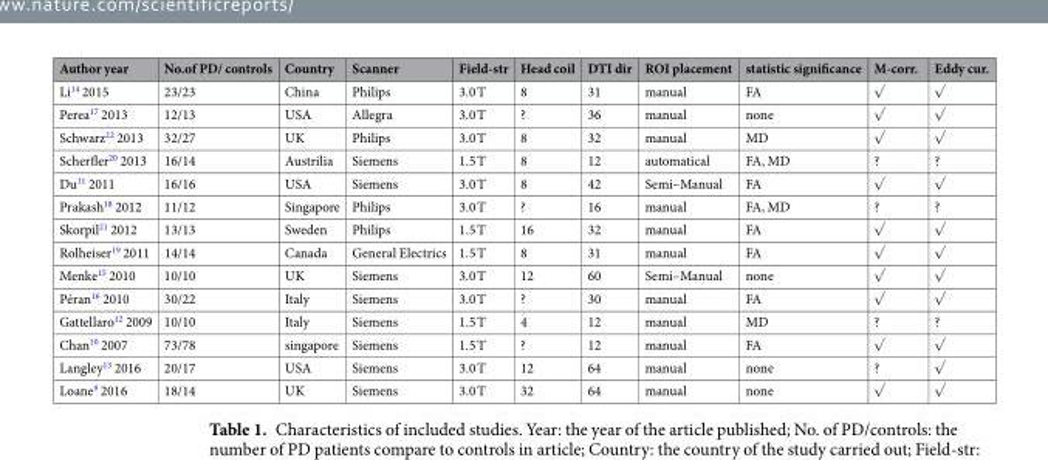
<table><thead><tr><td>Author year</td><td>No.of PD/ controls</td><td>Country</td><td>Scanner</td><td>Field-str</td><td>Head coil</td><td>DTI dir</td><td>ROI placement</td><td>statistic significance</td><td>M-corr.</td><td>Eddy cur.</td></tr></thead><tbody><tr><td>Li<sup>14</sup> 2015</td><td>23/23</td><td>China</td><td>Philips</td><td>3.0 T</td><td>8</td><td>31</td><td>manual</td><td>FA</td><td>√</td><td>√</td></tr><tr><td>Perea<sup>17</sup> 2013</td><td>12/13</td><td>USA</td><td>Allegra</td><td>3.0 T</td><td>?</td><td>36</td><td>manual</td><td>none</td><td>√</td><td>√</td></tr><tr><td>Schwarz<sup>22</sup> 2013</td><td>32/27</td><td>UK</td><td>Philips</td><td>3.0 T</td><td>8</td><td>32</td><td>manual</td><td>MD</td><td>√</td><td>√</td></tr><tr><td>Scherfler<sup>20</sup> 2013</td><td>16/14</td><td>Austrilia</td><td>Siemens</td><td>1.5 T</td><td>8</td><td>12</td><td>automatical</td><td>FA, MD</td><td>?</td><td>?</td></tr><tr><td>Du<sup>11</sup> 2011</td><td>16/16</td><td>USA</td><td>Siemens</td><td>3.0 T</td><td>8</td><td>42</td><td>Semi–Manual</td><td>FA</td><td>√</td><td>√</td></tr><tr><td>Prakash<sup>18</sup> 2012</td><td>11/12</td><td>Singapore</td><td>Philips</td><td>3.0 T</td><td>?</td><td>16</td><td>manual</td><td>FA, MD</td><td>?</td><td>?</td></tr><tr><td>Skorpil<sup>21</sup> 2012</td><td>13/13</td><td>Sweden</td><td>Philips</td><td>1.5 T</td><td>16</td><td>32</td><td>manual</td><td>FA</td><td>√</td><td>√</td></tr><tr><td>Rolheiser<sup>19</sup> 2011</td><td>14/14</td><td>Canada</td><td>General Electrics</td><td>1.5 T</td><td>8</td><td>31</td><td>manual</td><td>FA</td><td>√</td><td>√</td></tr><tr><td>Menke<sup>15</sup> 2010</td><td>10/10</td><td>UK</td><td>Siemens</td><td>3.0 T</td><td>12</td><td>60</td><td>Semi–Manual</td><td>none</td><td>√</td><td>√</td></tr><tr><td>Péran<sup>16</sup> 2010</td><td>30/22</td><td>Italy</td><td>Siemens</td><td>3.0 T</td><td>?</td><td>30</td><td>manual</td><td>FA</td><td>√</td><td>√</td></tr><tr><td>Gattellaro<sup>12</sup> 2009</td><td>10/10</td><td>Italy</td><td>Siemens</td><td>1.5 T</td><td>4</td><td>12</td><td>manual</td><td>MD</td><td>?</td><td>?</td></tr><tr><td>Chan<sup>10</sup> 2007</td><td>73/78</td><td>singapore</td><td>Siemens</td><td>1.5 T</td><td>?</td><td>12</td><td>manual</td><td>FA</td><td>√</td><td>√</td></tr><tr><td>Langley<sup>13</sup> 2016</td><td>20/17</td><td>USA</td><td>Siemens</td><td>3.0 T</td><td>12</td><td>64</td><td>manual</td><td>none</td><td>?</td><td>√</td></tr><tr><td>Loane<sup>9</sup> 2016</td><td>18/14</td><td>UK</td><td>Siemens</td><td>3.0 T</td><td>32</td><td>64</td><td>manual</td><td>none</td><td>√</td><td>√</td></tr></tbody></table>